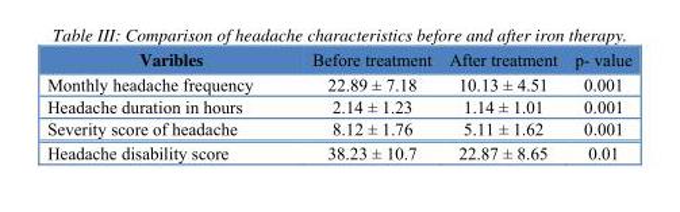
<table><thead><tr><td>Varibles</td><td>Before treatment</td><td>After treatment</td><td>p- value</td></tr></thead><tbody><tr><td>Monthly headache frequency</td><td>22.89 ± 7.18</td><td>10.13 ± 4.51</td><td>0.001</td></tr><tr><td>Headache duration in hours</td><td>2.14 ± 1.23</td><td>1.14 ± 1.01</td><td>0.001</td></tr><tr><td>Severity score of headache</td><td>8.12 ± 1.76</td><td>5.11 ± 1.62</td><td>0.001</td></tr><tr><td>Headache disability score</td><td>38.23 ± 10.7</td><td>22.87 ± 8.65</td><td>0.01</td></tr></tbody></table>